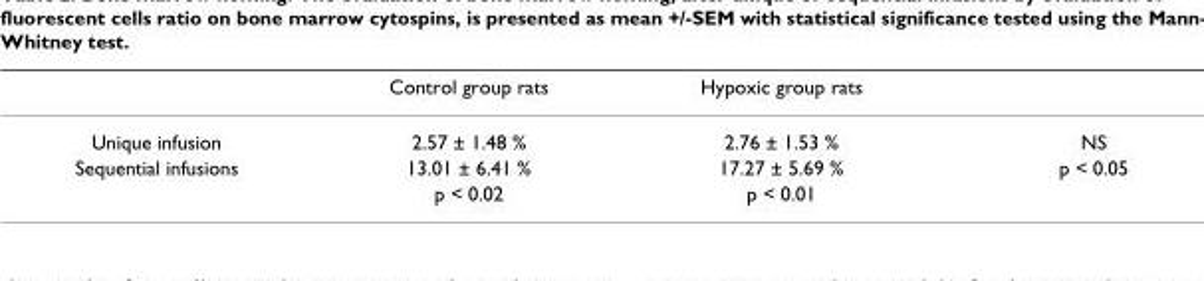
<table><thead><tr><td></td><td>Control group rats</td><td>Hypoxic group rats</td><td></td></tr></thead><tbody><tr><td>Unique infusion</td><td>2.57 ± 1.48 %</td><td>2.76 ± 1.53 %</td><td>NS</td></tr><tr><td rowspan="2">Sequential infusions</td><td>13.01 ± 6.41 %</td><td>17.27 ± 5.69 %</td><td>p &lt; 0.05</td></tr><tr><td>p &lt; 0.02</td><td>p &lt; 0.01</td><td></td></tr></tbody></table>